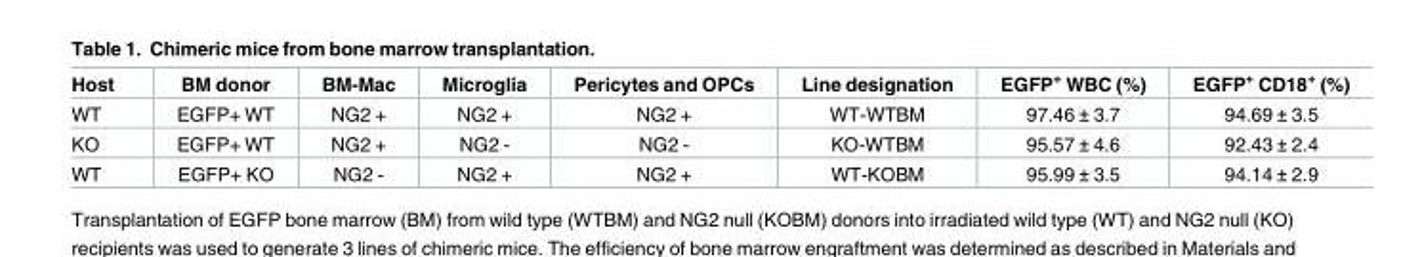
<table><thead><tr><td>Host</td><td>BM donor</td><td>BM-Mac</td><td>Microglia</td><td>Pericytes and OPCs</td><td>Line designation</td><td>EGFP<sup>+</sup> WBC (%)</td><td>EGFP<sup>+</sup> CD18<sup>+</sup> (%)</td></tr></thead><tbody><tr><td>WT</td><td>EGFP+ WT</td><td>NG2 +</td><td>NG2 +</td><td>NG2 +</td><td>WT-WTBM</td><td>97.46 ± 3.7</td><td>94.69 ± 3.5</td></tr><tr><td>KO</td><td>EGFP+ WT</td><td>NG2 +</td><td>NG2 -</td><td>NG2 -</td><td>KO-WTBM</td><td>95.57 ± 4.6</td><td>92.43 ± 2.4</td></tr><tr><td>WT</td><td>EGFP+ KO</td><td>NG2 -</td><td>NG2 +</td><td>NG2 +</td><td>WT-KOBM</td><td>95.99 ± 3.5</td><td>94.14 ± 2.9</td></tr></tbody></table>